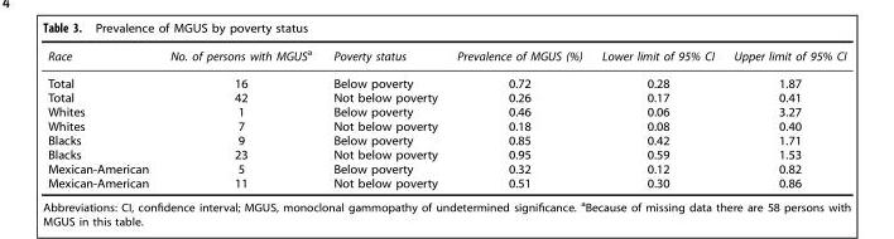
<table><thead><tr><td>Race</td><td>No. of persons with MGUS<sup>a</sup></td><td>Poverty status</td><td>Prevalence of MGUS (%)</td><td>Lower limit of 95% CI</td><td>Upper limit of 95% CI</td></tr></thead><tbody><tr><td>Total</td><td>16</td><td>Below poverty</td><td>0.72</td><td>0.28</td><td>1.87</td></tr><tr><td>Total</td><td>42</td><td>Not below poverty</td><td>0.26</td><td>0.17</td><td>0.41</td></tr><tr><td>Whites</td><td>1</td><td>Below poverty</td><td>0.46</td><td>0.06</td><td>3.27</td></tr><tr><td>Whites</td><td>7</td><td>Not below poverty</td><td>0.18</td><td>0.08</td><td>0.40</td></tr><tr><td>Blacks</td><td>9</td><td>Below poverty</td><td>0.85</td><td>0.42</td><td>1.71</td></tr><tr><td>Blacks</td><td>23</td><td>Not below poverty</td><td>0.95</td><td>0.59</td><td>1.53</td></tr><tr><td>Mexican-American</td><td>5</td><td>Below poverty</td><td>0.32</td><td>0.12</td><td>0.82</td></tr><tr><td>Mexican-American</td><td>11</td><td>Not below poverty</td><td>0.51</td><td>0.30</td><td>0.86</td></tr></tbody></table>